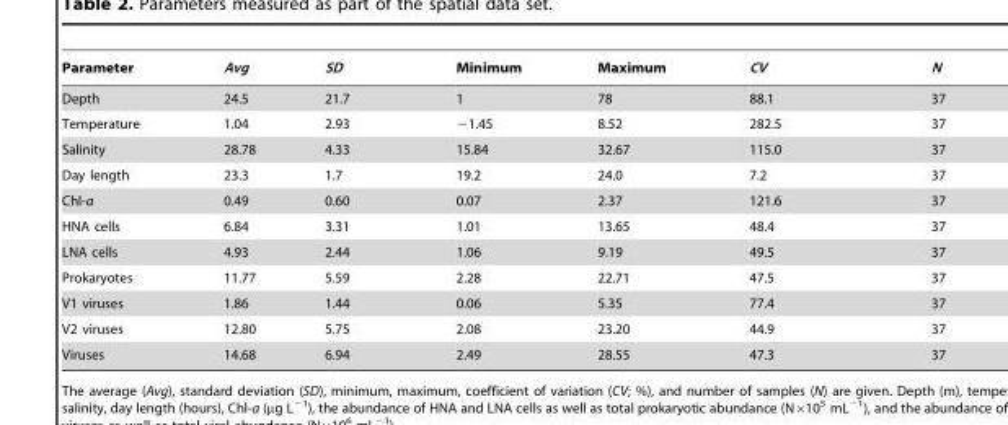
<table><thead><tr><td>Parameter</td><td>Avg</td><td>SD</td><td>Minimum</td><td>Maximum</td><td>CV</td><td>N</td></tr></thead><tbody><tr><td>Depth</td><td>24.5</td><td>21.7</td><td>1</td><td>78</td><td>88.1</td><td>37</td></tr><tr><td>Temperature</td><td>1.04</td><td>2.93</td><td>−1.45</td><td>8.52</td><td>282.5</td><td>37</td></tr><tr><td>Salinity</td><td>28.78</td><td>4.33</td><td>15.84</td><td>32.67</td><td>115.0</td><td>37</td></tr><tr><td>Day length</td><td>23.3</td><td>1.7</td><td>19.2</td><td>24.0</td><td>7.2</td><td>37</td></tr><tr><td>Chl-a</td><td>0.49</td><td>0.60</td><td>0.07</td><td>2.37</td><td>121.6</td><td>37</td></tr><tr><td>HNA cells</td><td>6.84</td><td>3.31</td><td>1.01</td><td>13.65</td><td>48.4</td><td>37</td></tr><tr><td>LNA cells</td><td>4.93</td><td>2.44</td><td>1.06</td><td>9.19</td><td>49.5</td><td>37</td></tr><tr><td>Prokaryotes</td><td>11.77</td><td>5.59</td><td>2.28</td><td>22.71</td><td>47.5</td><td>37</td></tr><tr><td>V1 viruses</td><td>1.86</td><td>1.44</td><td>0.06</td><td>5.35</td><td>77.4</td><td>37</td></tr><tr><td>V2 viruses</td><td>12.80</td><td>5.75</td><td>2.08</td><td>23.20</td><td>44.9</td><td>37</td></tr><tr><td>Viruses</td><td>14.68</td><td>6.94</td><td>2.49</td><td>28.55</td><td>47.3</td><td>37</td></tr></tbody></table>